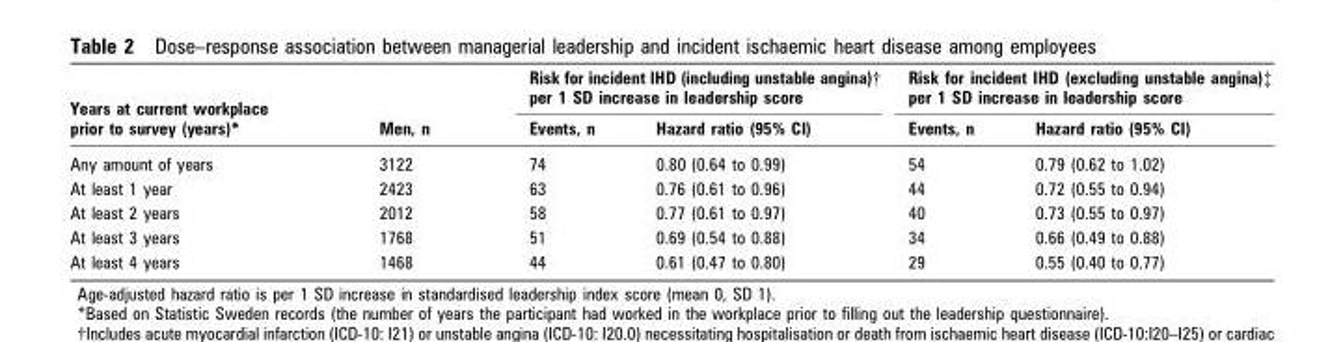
<table><thead><tr><td rowspan="2">Years at current workplace prior to survey (years)*</td><td rowspan="2">Men, n</td><td colspan="2">Risk for incident IHD (including unstable angina)† per 1 SD increase in leadership score</td><td colspan="2">Risk for incident IHD (excluding unstable angina)‡ per 1 SD increase in leadership score</td></tr><tr><td>Events, n</td><td>Hazard ratio (95% CI)</td><td>Events, n</td><td>Hazard ratio (95% CI)</td></tr></thead><tbody><tr><td>Any amount of years</td><td>3122</td><td>74</td><td>0.80 (0.64 to 0.99)</td><td>54</td><td>0.79 (0.62 to 1.02)</td></tr><tr><td>At least 1 year</td><td>2423</td><td>63</td><td>0.76 (0.61 to 0.96)</td><td>44</td><td>0.72 (0.55 to 0.94)</td></tr><tr><td>At least 2 years</td><td>2012</td><td>58</td><td>0.77 (0.61 to 0.97)</td><td>40</td><td>0.73 (0.55 to 0.97)</td></tr><tr><td>At least 3 years</td><td>1768</td><td>51</td><td>0.69 (0.54 to 0.88)</td><td>34</td><td>0.66 (0.49 to 0.88)</td></tr><tr><td>At least 4 years</td><td>1468</td><td>44</td><td>0.61 (0.47 to 0.80)</td><td>29</td><td>0.55 (0.40 to 0.77)</td></tr></tbody></table>